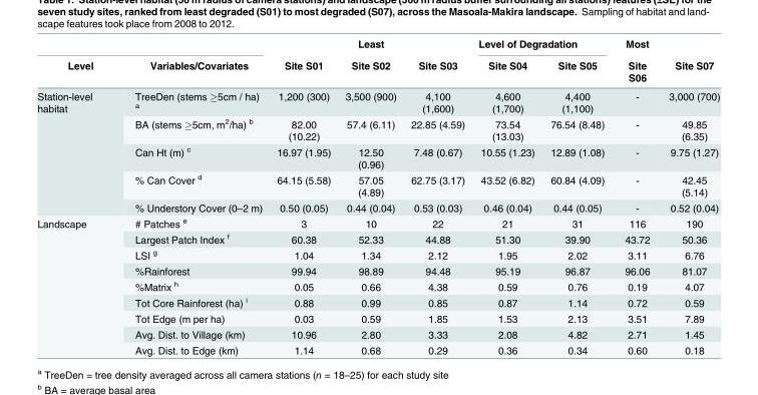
<table><thead><tr><td rowspan="2">Level</td><td rowspan="2">Variables/Covariates</td><td rowspan="2">Site S01</td><td rowspan="2">Least Site S02</td><td rowspan="2">Site S03</td><td colspan="2">Level of Degradation</td><td rowspan="2">Most Site S06</td><td rowspan="2">Site S07</td></tr><tr><td>Site S04</td><td>Site S05</td></tr></thead><tbody><tr><td rowspan="5">Station-level habitat</td><td>TreeDen (stems ≥5cm / ha) <sup>a</sup></td><td>1,200 (300)</td><td>3,500 (900)</td><td>4,100 (1,600)</td><td>4,600 (1,700)</td><td>4,400 (1,100)</td><td>-</td><td>3,000 (700)</td></tr><tr><td>BA (stems ≥5cm, m<sup>2</sup>/ha) <sup>b</sup></td><td>82.00 (10.22)</td><td>57.4 (6.11)</td><td>22.85 (4.59)</td><td>73.54 (13.03)</td><td>76.54 (8.48)</td><td>-</td><td>49.85 (6.35)</td></tr><tr><td>Can Ht (m) <sup>c</sup></td><td>16.97 (1.95)</td><td>12.50 (0.96)</td><td>7.48 (0.67)</td><td>10.55 (1.23)</td><td>12.89 (1.08)</td><td>-</td><td>9.75 (1.27)</td></tr><tr><td>% Can Cover <sup>d</sup></td><td>64.15 (5.58)</td><td>57.05 (4.89)</td><td>62.75 (3.17)</td><td>43.52 (6.82)</td><td>60.84 (4.09)</td><td>-</td><td>42.45 (5.14)</td></tr><tr><td>% Understory Cover (0–2 m)</td><td>0.50 (0.05)</td><td>0.44 (0.04)</td><td>0.53 (0.03)</td><td>0.46 (0.04)</td><td>0.44 (0.05)</td><td>-</td><td>0.52 (0.04)</td></tr><tr><td rowspan="9">Landscape</td><td># Patches <sup>e</sup></td><td>3</td><td>10</td><td>22</td><td>21</td><td>31</td><td>116</td><td>190</td></tr><tr><td>Largest Patch Index <sup>f</sup></td><td>60.38</td><td>52.33</td><td>44.88</td><td>51.30</td><td>39.90</td><td>43.72</td><td>50.36</td></tr><tr><td>LSI <sup>g</sup></td><td>1.04</td><td>1.34</td><td>2.12</td><td>1.95</td><td>2.02</td><td>3.11</td><td>6.76</td></tr><tr><td>%Rainforest</td><td>99.94</td><td>98.89</td><td>94.48</td><td>95.19</td><td>96.87</td><td>96.06</td><td>81.07</td></tr><tr><td>%Matrix <sup>h</sup></td><td>0.05</td><td>0.66</td><td>4.38</td><td>0.59</td><td>0.76</td><td>0.19</td><td>4.07</td></tr><tr><td>Tot Core Rainforest (ha) <sup>i</sup></td><td>0.88</td><td>0.99</td><td>0.85</td><td>0.87</td><td>1.14</td><td>0.72</td><td>0.59</td></tr><tr><td>Tot Edge (m per ha)</td><td>0.03</td><td>0.59</td><td>1.85</td><td>1.53</td><td>2.13</td><td>3.51</td><td>7.89</td></tr><tr><td>Avg. Dist. to Village (km)</td><td>10.96</td><td>2.80</td><td>3.33</td><td>2.08</td><td>4.82</td><td>2.71</td><td>1.45</td></tr><tr><td>Avg. Dist. to Edge (km)</td><td>1.14</td><td>0.68</td><td>0.29</td><td>0.36</td><td>0.34</td><td>0.60</td><td>0.18</td></tr></tbody></table>